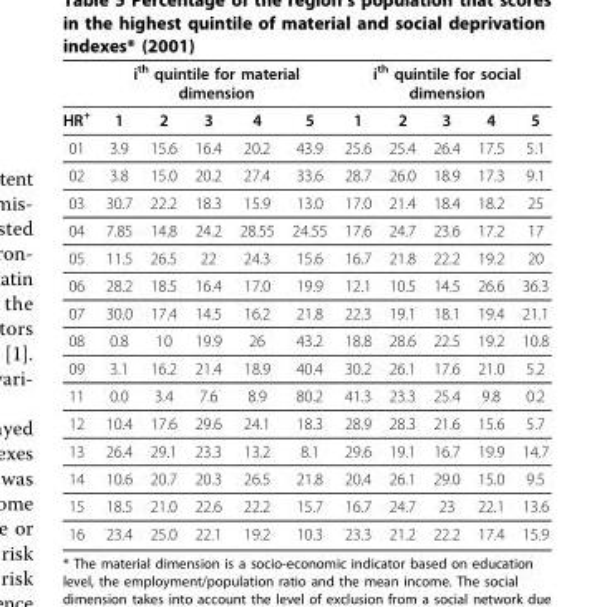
<table><thead><tr><td rowspan="2">HR<sup>+</sup></td><td colspan="5">i<sup>th</sup> quintile for material dimension</td><td colspan="5">i<sup>th</sup> quintile for social dimension</td></tr><tr><td>1</td><td>2</td><td>3</td><td>4</td><td>5</td><td>1</td><td>2</td><td>3</td><td>4</td><td>5</td></tr></thead><tbody><tr><td>01</td><td>3.9</td><td>15.6</td><td>16.4</td><td>20.2</td><td>43.9</td><td>25.6</td><td>25.4</td><td>26.4</td><td>17.5</td><td>5.1</td></tr><tr><td>02</td><td>3.8</td><td>15.0</td><td>20.2</td><td>27.4</td><td>33.6</td><td>28.7</td><td>26.0</td><td>18.9</td><td>17.3</td><td>9.1</td></tr><tr><td>03</td><td>30.7</td><td>22.2</td><td>18.3</td><td>15.9</td><td>13.0</td><td>17.0</td><td>21.4</td><td>18.4</td><td>18.2</td><td>25</td></tr><tr><td>04</td><td>7.85</td><td>14.8</td><td>24.2</td><td>28.55</td><td>24.55</td><td>17.6</td><td>24.7</td><td>23.6</td><td>17.2</td><td>17</td></tr><tr><td>05</td><td>11.5</td><td>26.5</td><td>22</td><td>24.3</td><td>15.6</td><td>16.7</td><td>21.8</td><td>22.2</td><td>19.2</td><td>20</td></tr><tr><td>06</td><td>28.2</td><td>18.5</td><td>16.4</td><td>17.0</td><td>19.9</td><td>12.1</td><td>10.5</td><td>14.5</td><td>26.6</td><td>36.3</td></tr><tr><td>07</td><td>30.0</td><td>17.4</td><td>14.5</td><td>16.2</td><td>21.8</td><td>22.3</td><td>19.1</td><td>18.1</td><td>19.4</td><td>21.1</td></tr><tr><td>08</td><td>0.8</td><td>10</td><td>19.9</td><td>26</td><td>43.2</td><td>18.8</td><td>28.6</td><td>22.5</td><td>19.2</td><td>10.8</td></tr><tr><td>09</td><td>3.1</td><td>16.2</td><td>21.4</td><td>18.9</td><td>40.4</td><td>30.2</td><td>26.1</td><td>17.6</td><td>21.0</td><td>5.2</td></tr><tr><td>11</td><td>0.0</td><td>3.4</td><td>7.6</td><td>8.9</td><td>80.2</td><td>41.3</td><td>23.3</td><td>25.4</td><td>9.8</td><td>0.2</td></tr><tr><td>12</td><td>10.4</td><td>17.6</td><td>29.6</td><td>24.1</td><td>18.3</td><td>28.9</td><td>28.3</td><td>21.6</td><td>15.6</td><td>5.7</td></tr><tr><td>13</td><td>26.4</td><td>29.1</td><td>23.3</td><td>13.2</td><td>8.1</td><td>29.6</td><td>19.1</td><td>16.7</td><td>19.9</td><td>14.7</td></tr><tr><td>14</td><td>10.6</td><td>20.7</td><td>20.3</td><td>26.5</td><td>21.8</td><td>20.4</td><td>26.1</td><td>29.0</td><td>15.0</td><td>9.5</td></tr><tr><td>15</td><td>18.5</td><td>21.0</td><td>22.6</td><td>22.2</td><td>15.7</td><td>16.7</td><td>24.7</td><td>23</td><td>22.1</td><td>13.6</td></tr><tr><td>16</td><td>23.4</td><td>25.0</td><td>22.1</td><td>19.2</td><td>10.3</td><td>23.3</td><td>21.2</td><td>22.2</td><td>17.4</td><td>15.9</td></tr></tbody></table>